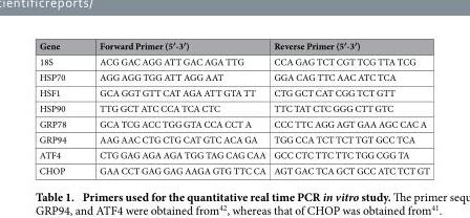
<table><thead><tr><td>Gene</td><td>Forward Primer (5′-3′)</td><td>Reverse Primer (5′-3′)</td></tr></thead><tbody><tr><td>18S</td><td>ACG GAC AGG ATT GAC AGA TTG</td><td>CCA GAG TCT CGT TCG TTA TCG</td></tr><tr><td>HSP70</td><td>AGG AGG TGG ATT AGG AAT</td><td>GGA CAG TTC AAC ATC TCA</td></tr><tr><td>HSF1</td><td>GCA GGT GTT CAT AGA ATT GTA TT</td><td>CTG GCT CAT CGG TCT GTT</td></tr><tr><td>HSP90</td><td>TTG GCT ATC CCA TCA CTC</td><td>TTC TAT CTC GGG CTT GTC</td></tr><tr><td>GRP78</td><td>GCA TCG ACC TGG GTA CCA CCT A</td><td>CCC TTC AGG AGT GAA AGC CAC A</td></tr><tr><td>GRP94</td><td>AAG AAC CTG CTG CAT GTC ACA GA</td><td>TGG CCA TCT TCT TGT GCC TCA</td></tr><tr><td>ATF4</td><td>CTG GAG AGA AGA TGG TAG CAG CAA</td><td>GCC CTC TTC TTC TGG CGG TA</td></tr><tr><td>CHOP</td><td>GAA CCT GAG GAG AAGA GTG TTC CA</td><td>AGT GAC TCA GCT GCC ATC TCT GT</td></tr></tbody></table>